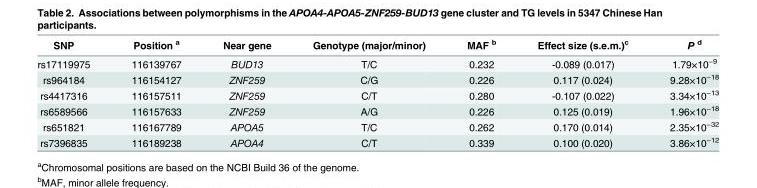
<table><thead><tr><td>SNP</td><td>Position <sup>a</sup></td><td>Near gene</td><td>Genotype (major/minor)</td><td>MAF <sup>b</sup></td><td>Effect size (s.e.m.)<sup>c</sup></td><td>P <sup>d</sup></td></tr></thead><tbody><tr><td>rs17119975</td><td>116139767</td><td>BUD13</td><td>T/C</td><td>0.232</td><td>-0.089 (0.017)</td><td>1.79×10<sup>−9</sup></td></tr><tr><td>rs964184</td><td>116154127</td><td>ZNF259</td><td>C/G</td><td>0.226</td><td>0.117 (0.024)</td><td>9.28×10<sup>−18</sup></td></tr><tr><td>rs4417316</td><td>116157511</td><td>ZNF259</td><td>C/T</td><td>0.280</td><td>-0.107 (0.022)</td><td>3.34×10<sup>−13</sup></td></tr><tr><td>rs6589566</td><td>116157633</td><td>ZNF259</td><td>A/G</td><td>0.226</td><td>0.125 (0.019)</td><td>1.96×10<sup>−18</sup></td></tr><tr><td>rs651821</td><td>116167789</td><td>APOA5</td><td>T/C</td><td>0.262</td><td>0.170 (0.014)</td><td>2.35×10<sup>−32</sup></td></tr><tr><td>rs7396835</td><td>116189238</td><td>APOA4</td><td>C/T</td><td>0.339</td><td>0.100 (0.020)</td><td>3.86×10<sup>−12</sup></td></tr></tbody></table>